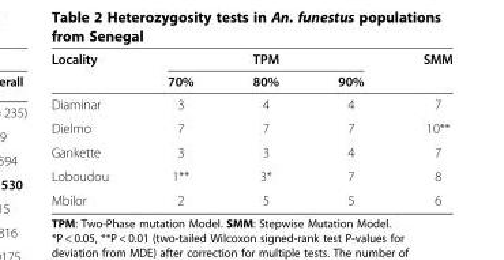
<table><thead><tr><td rowspan="2">Locality</td><td colspan="3">TPM</td><td rowspan="2">SMM</td></tr><tr><td>70%</td><td>80%</td><td>90%</td></tr></thead><tbody><tr><td>Diaminar</td><td>3</td><td>4</td><td>4</td><td>7</td></tr><tr><td>Dielmo</td><td>7</td><td>7</td><td>7</td><td>10**</td></tr><tr><td>Gankette</td><td>3</td><td>3</td><td>4</td><td>7</td></tr><tr><td>Loboudou</td><td>1**</td><td>3*</td><td>7</td><td>8</td></tr><tr><td>Mbilor</td><td>2</td><td>5</td><td>5</td><td>6</td></tr></tbody></table>